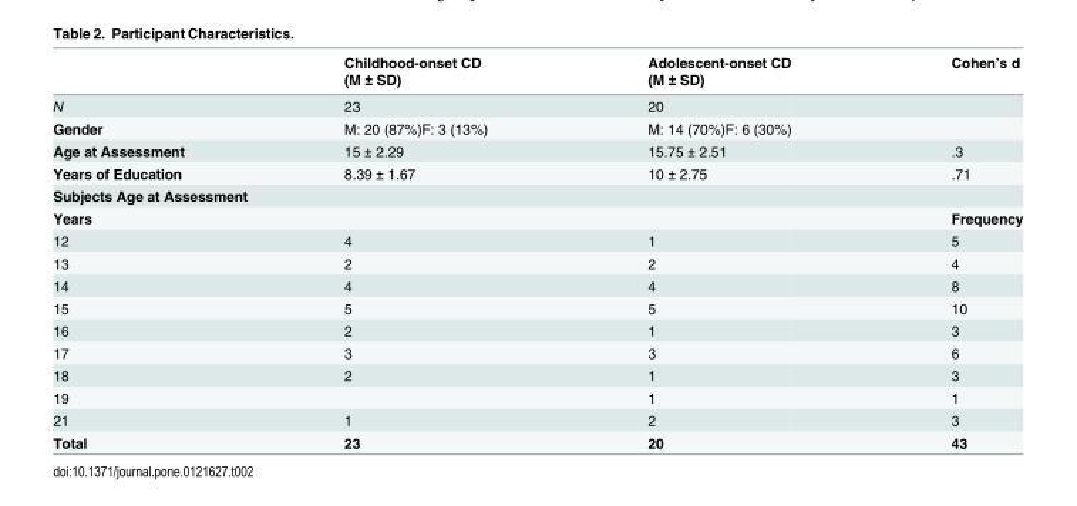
<table><thead><tr><td rowspan="2"></td><td rowspan="2">Childhood-onset CD (M ± SD)</td><td rowspan="2">Adolescent-onset CD (M ± SD)</td><td rowspan="2">Cohen’s d</td></tr><tr></tr></thead><tbody><tr><td>N</td><td>23</td><td>20</td><td></td></tr><tr><td>Gender</td><td>M: 20 (87%)F: 3 (13%)</td><td>M: 14 (70%)F: 6 (30%)</td><td></td></tr><tr><td>Age at Assessment</td><td>15 ± 2.29</td><td>15.75 ± 2.51</td><td>.3</td></tr><tr><td>Years of Education</td><td>8.39 ± 1.67</td><td>10 ± 2.75</td><td>.71</td></tr><tr><td colspan="4">Subjects Age at Assessment</td></tr><tr><td>Years</td><td></td><td></td><td>Frequency</td></tr><tr><td>12</td><td>4</td><td>1</td><td>5</td></tr><tr><td>13</td><td>2</td><td>2</td><td>4</td></tr><tr><td>14</td><td>4</td><td>4</td><td>8</td></tr><tr><td>15</td><td>5</td><td>5</td><td>10</td></tr><tr><td>16</td><td>2</td><td>1</td><td>3</td></tr><tr><td>17</td><td>3</td><td>3</td><td>6</td></tr><tr><td>18</td><td>2</td><td>1</td><td>3</td></tr><tr><td>19</td><td></td><td>1</td><td>1</td></tr><tr><td>21</td><td>1</td><td>2</td><td>3</td></tr><tr><td>Total</td><td>23</td><td>20</td><td>43</td></tr></tbody></table>